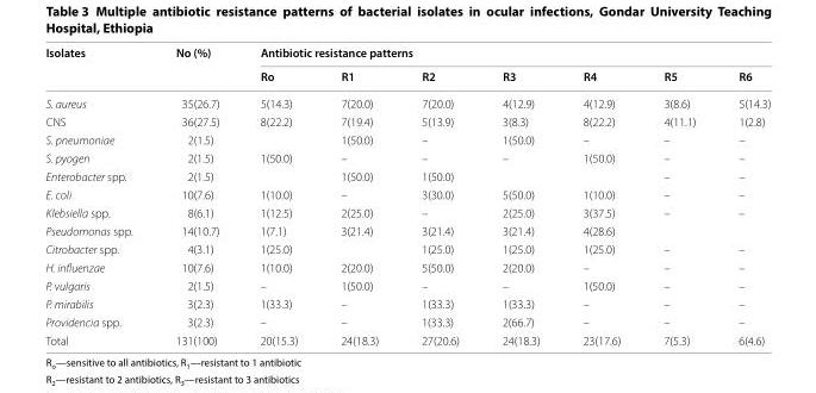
<table><thead><tr><td rowspan="2">Isolates</td><td rowspan="2">No (%)</td><td colspan="7">Antibiotic resistance patterns</td></tr><tr><td>Ro</td><td>R1</td><td>R2</td><td>R3</td><td>R4</td><td>R5</td><td>R6</td></tr></thead><tbody><tr><td>S. aureus</td><td>35(26.7)</td><td>5(14.3)</td><td>7(20.0)</td><td>7(20.0)</td><td>4(12.9)</td><td>4(12.9)</td><td>3(8.6)</td><td>5(14.3)</td></tr><tr><td>CNS</td><td>36(27.5)</td><td>8(22.2)</td><td>7(19.4)</td><td>5(13.9)</td><td>3(8.3)</td><td>8(22.2)</td><td>4(11.1)</td><td>1(2.8)</td></tr><tr><td>S. pneumoniae</td><td>2(1.5)</td><td></td><td>1(50.0)</td><td>–</td><td>1(50.0)</td><td>–</td><td>–</td><td>–</td></tr><tr><td>S. pyogen</td><td>2(1.5)</td><td>1(50.0)</td><td>–</td><td>–</td><td>–</td><td>1(50.0)</td><td>–</td><td>–</td></tr><tr><td>Enterobacter spp.</td><td>2(1.5)</td><td></td><td>1(50.0)</td><td>1(50.0)</td><td></td><td></td><td>–</td><td>–</td></tr><tr><td>E. coli</td><td>10(7.6)</td><td>1(10.0)</td><td>–</td><td>3(30.0)</td><td>5(50.0)</td><td>1(10.0)</td><td>–</td><td>–</td></tr><tr><td>Klebsiella spp.</td><td>8(6.1)</td><td>1(12.5)</td><td>2(25.0)</td><td>–</td><td>2(25.0)</td><td>3(37.5)</td><td>–</td><td>–</td></tr><tr><td>Pseudomonas spp.</td><td>14(10.7)</td><td>1(7.1)</td><td>3(21.4)</td><td>3(21.4)</td><td>3(21.4)</td><td>4(28.6)</td><td></td><td></td></tr><tr><td>Citrobacter spp.</td><td>4(3.1)</td><td>1(25.0)</td><td></td><td>1(25.0)</td><td>1(25.0)</td><td>1(25.0)</td><td>–</td><td>–</td></tr><tr><td>H. influenzae</td><td>10(7.6)</td><td>1(10.0)</td><td>2(20.0)</td><td>5(50.0)</td><td>2(20.0)</td><td>–</td><td>–</td><td>–</td></tr><tr><td>P. vulgaris</td><td>2(1.5)</td><td>–</td><td>1(50.0)</td><td>–</td><td>–</td><td>1(50.0)</td><td>–</td><td>–</td></tr><tr><td>P. mirabilis</td><td>3(2.3)</td><td>1(33.3)</td><td>–</td><td>1(33.3)</td><td>1(33.3)</td><td>–</td><td>–</td><td>–</td></tr><tr><td>Providencia spp.</td><td>3(2.3)</td><td>–</td><td>–</td><td>1(33.3)</td><td>2(66.7)</td><td>–</td><td>–</td><td>–</td></tr><tr><td>Total</td><td>131(100)</td><td>20(15.3)</td><td>24(18.3)</td><td>27(20.6)</td><td>24(18.3)</td><td>23(17.6)</td><td>7(5.3)</td><td>6(4.6)</td></tr></tbody></table>